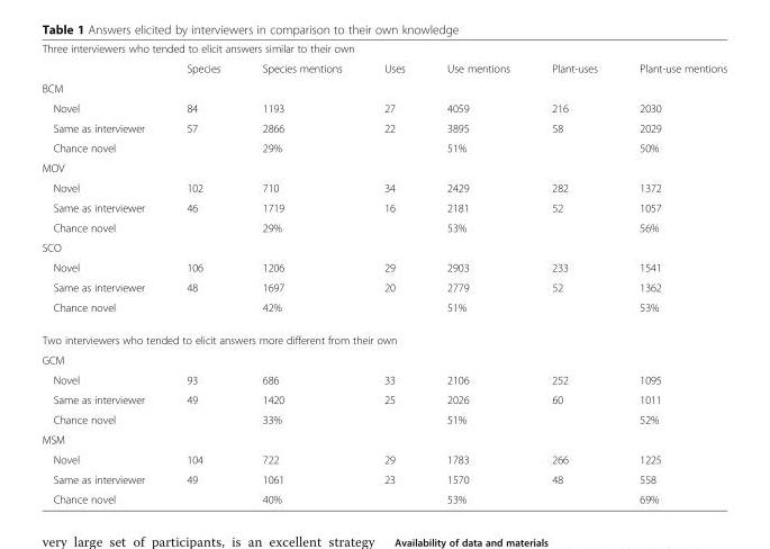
<table><tbody><tr><td colspan="7">Three interviewers who tended to elicit answers similar to their own</td></tr><tr><td></td><td>Species</td><td>Species mentions</td><td>Uses</td><td>Use mentions</td><td>Plant-uses</td><td>Plant-use mentions</td></tr><tr><td colspan="7">BCM</td></tr><tr><td>Novel</td><td>84</td><td>1193</td><td>27</td><td>4059</td><td>216</td><td>2030</td></tr><tr><td>Same as interviewer</td><td>57</td><td>2866</td><td>22</td><td>3895</td><td>58</td><td>2029</td></tr><tr><td>Chance novel</td><td></td><td>29%</td><td></td><td>51%</td><td></td><td>50%</td></tr><tr><td colspan="7">MOV</td></tr><tr><td>Novel</td><td>102</td><td>710</td><td>34</td><td>2429</td><td>282</td><td>1372</td></tr><tr><td>Same as interviewer</td><td>46</td><td>1719</td><td>16</td><td>2181</td><td>52</td><td>1057</td></tr><tr><td>Chance novel</td><td></td><td>29%</td><td></td><td>53%</td><td></td><td>56%</td></tr><tr><td colspan="7">SCO</td></tr><tr><td>Novel</td><td>106</td><td>1206</td><td>29</td><td>2903</td><td>233</td><td>1541</td></tr><tr><td>Same as interviewer</td><td>48</td><td>1697</td><td>20</td><td>2779</td><td>52</td><td>1362</td></tr><tr><td>Chance novel</td><td></td><td>42%</td><td></td><td>51%</td><td></td><td>53%</td></tr><tr><td colspan="7">Two interviewers who tended to elicit answers more different from their own</td></tr><tr><td colspan="7">GCM</td></tr><tr><td>Novel</td><td>93</td><td>686</td><td>33</td><td>2106</td><td>252</td><td>1095</td></tr><tr><td>Same as interviewer</td><td>49</td><td>1420</td><td>25</td><td>2026</td><td>60</td><td>1011</td></tr><tr><td>Chance novel</td><td></td><td>33%</td><td></td><td>51%</td><td></td><td>52%</td></tr><tr><td colspan="7">MSM</td></tr><tr><td>Novel</td><td>104</td><td>722</td><td>29</td><td>1783</td><td>266</td><td>1225</td></tr><tr><td>Same as interviewer</td><td>49</td><td>1061</td><td>23</td><td>1570</td><td>48</td><td>558</td></tr><tr><td>Chance novel</td><td></td><td>40%</td><td></td><td>53%</td><td></td><td>69%</td></tr></tbody></table>